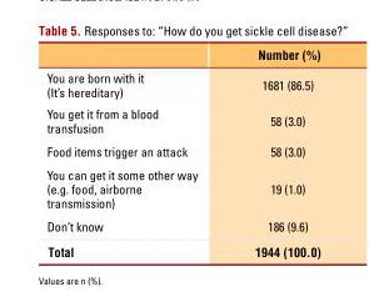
<table><thead><tr><td></td><td>Number (%)</td></tr></thead><tbody><tr><td>You are born with it (It’s hereditary)</td><td>1681 (86.5)</td></tr><tr><td>You get it from a blood transfusion</td><td>58 (3.0)</td></tr><tr><td>Food items trigger an attack</td><td>58 (3.0)</td></tr><tr><td>You can get it some other way (e.g. food, airborne transmission)</td><td>19 (1.0)</td></tr><tr><td>Don’t know</td><td>186 (9.6)</td></tr><tr><td>Total</td><td>1944 (100.0)</td></tr></tbody></table>